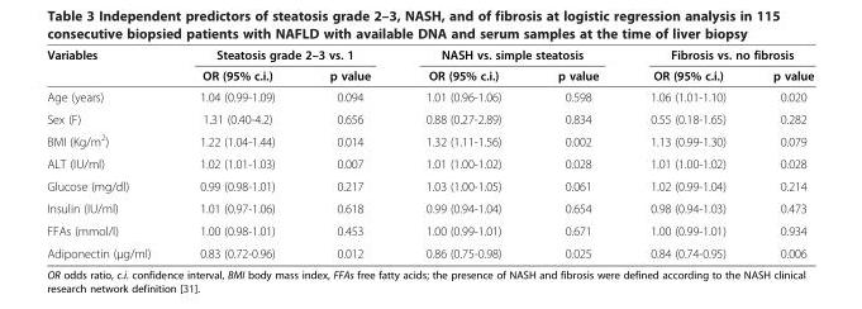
<table><thead><tr><td rowspan="2">Variables</td><td colspan="2">Steatosis grade 2–3 vs. 1</td><td colspan="2">NASH vs. simple steatosis</td><td colspan="2">Fibrosis vs. no fibrosis</td></tr><tr><td>OR (95% c.i.)</td><td>p value</td><td>OR (95% c.i.)</td><td>p value</td><td>OR (95% c.i.)</td><td>p value</td></tr></thead><tbody><tr><td>Age (years)</td><td>1.04 (0.99-1.09)</td><td>0.094</td><td>1.01 (0.96-1.06)</td><td>0.598</td><td>1.06 (1.01-1.10)</td><td>0.020</td></tr><tr><td>Sex (F)</td><td>1.31 (0.40-4.2)</td><td>0.656</td><td>0.88 (0.27-2.89)</td><td>0.834</td><td>0.55 (0.18-1.65)</td><td>0.282</td></tr><tr><td>BMI (Kg/m<sup>2</sup>)</td><td>1.22 (1.04-1.44)</td><td>0.014</td><td>1.32 (1.11-1.56)</td><td>0.002</td><td>1.13 (0.99-1.30)</td><td>0.079</td></tr><tr><td>ALT (IU/ml)</td><td>1.02 (1.01-1.03)</td><td>0.007</td><td>1.01 (1.00-1.02)</td><td>0.028</td><td>1.01 (1.00-1.02)</td><td>0.028</td></tr><tr><td>Glucose (mg/dl)</td><td>0.99 (0.98-1.01)</td><td>0.217</td><td>1.03 (1.00-1.05)</td><td>0.061</td><td>1.02 (0.99-1.04)</td><td>0.214</td></tr><tr><td>Insulin (IU/ml)</td><td>1.01 (0.97-1.06)</td><td>0.618</td><td>0.99 (0.94-1.04)</td><td>0.654</td><td>0.98 (0.94-1.03)</td><td>0.473</td></tr><tr><td>FFAs (mmol/l)</td><td>1.00 (0.98-1.01)</td><td>0.453</td><td>1.00 (0.99-1.01)</td><td>0.671</td><td>1.00 (0.99-1.01)</td><td>0.934</td></tr><tr><td>Adiponectin (μg/ml)</td><td>0.83 (0.72-0.96)</td><td>0.012</td><td>0.86 (0.75-0.98)</td><td>0.025</td><td>0.84 (0.74-0.95)</td><td>0.006</td></tr></tbody></table>